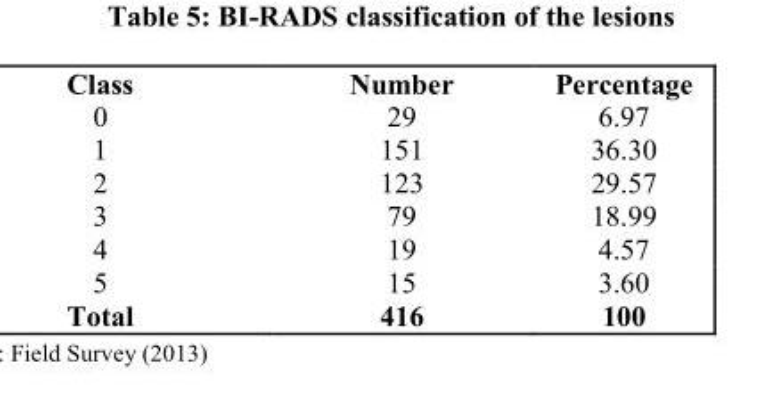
<table><thead><tr><td>Class</td><td>Number</td><td>Percentage</td></tr></thead><tbody><tr><td>0</td><td>29</td><td>6.97</td></tr><tr><td>1</td><td>151</td><td>36.30</td></tr><tr><td>2</td><td>123</td><td>29.57</td></tr><tr><td>3</td><td>79</td><td>18.99</td></tr><tr><td>4</td><td>19</td><td>4.57</td></tr><tr><td>5</td><td>15</td><td>3.60</td></tr><tr><td>Total</td><td>416</td><td>100</td></tr></tbody></table>